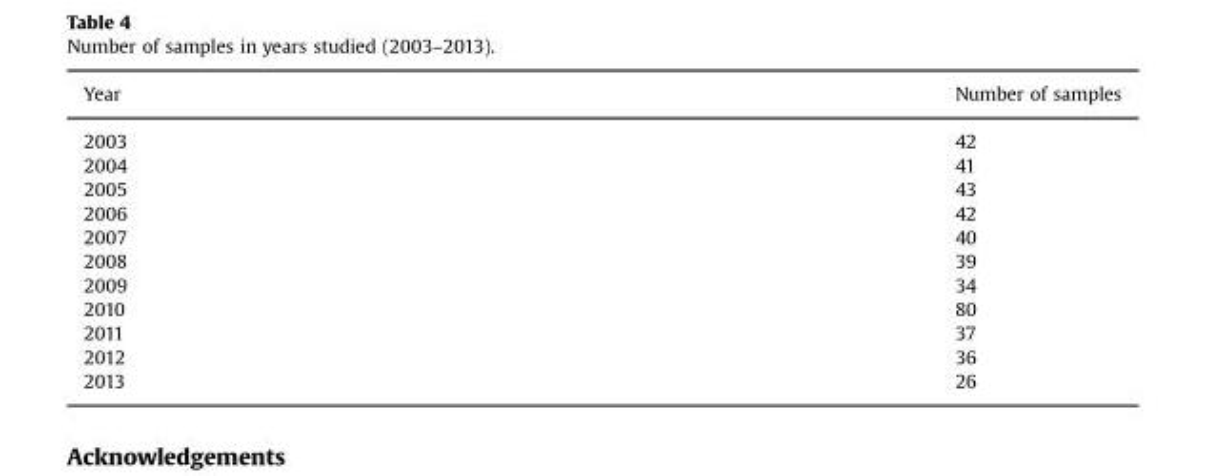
<table><thead><tr><td>Year</td><td>Number of samples</td></tr></thead><tbody><tr><td>2003</td><td>42</td></tr><tr><td>2004</td><td>41</td></tr><tr><td>2005</td><td>43</td></tr><tr><td>2006</td><td>42</td></tr><tr><td>2007</td><td>40</td></tr><tr><td>2008</td><td>39</td></tr><tr><td>2009</td><td>34</td></tr><tr><td>2010</td><td>80</td></tr><tr><td>2011</td><td>37</td></tr><tr><td>2012</td><td>36</td></tr><tr><td>2013</td><td>26</td></tr></tbody></table>